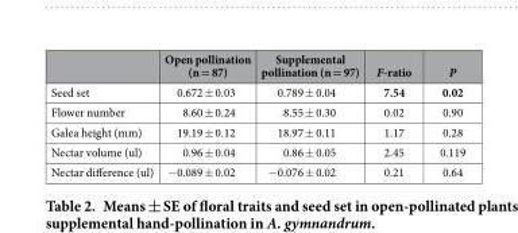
<table><thead><tr><td></td><td>Open pollination (n = 87)</td><td>Supplemental pollination (n = 97)</td><td>F-ratio</td><td>P</td></tr></thead><tbody><tr><td>Seed set</td><td>0.672 ± 0.03</td><td>0.789 ± 0.04</td><td>7.54</td><td>0.02</td></tr><tr><td>Flower number</td><td>8.60 ± 0.24</td><td>8.55 ± 0.30</td><td>0.02</td><td>0.90</td></tr><tr><td>Galea height (mm)</td><td>19.19 ± 0.12</td><td>18.97 ± 0.11</td><td>1.17</td><td>0.28</td></tr><tr><td>Nectar volume (ul)</td><td>0.96 ± 0.04</td><td>0.86 ± 0.05</td><td>2.45</td><td>0.119</td></tr><tr><td>Nectar difference (ul)</td><td>− 0.089 ± 0.02</td><td>− 0.076 ± 0.02</td><td>0.21</td><td>0.64</td></tr></tbody></table>